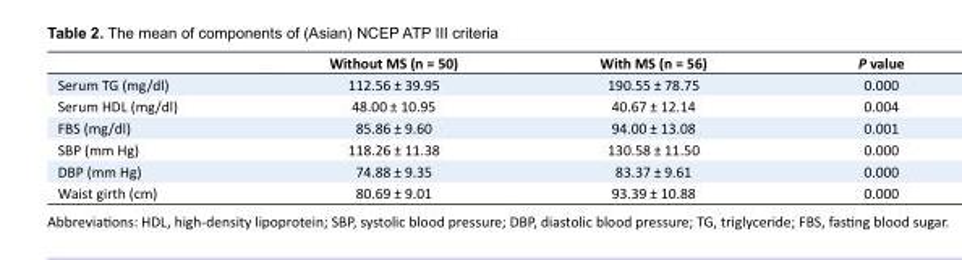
<table><thead><tr><td></td><td>Without MS (n = 50)</td><td>With MS (n = 56)</td><td>P value</td></tr></thead><tbody><tr><td>Serum TG (mg/dl)</td><td>112.56 ± 39.95</td><td>190.55 ± 78.75</td><td>0.000</td></tr><tr><td>Serum HDL (mg/dl)</td><td>48.00 ± 10.95</td><td>40.67 ± 12.14</td><td>0.004</td></tr><tr><td>FBS (mg/dl)</td><td>85.86 ± 9.60</td><td>94.00 ± 13.08</td><td>0.001</td></tr><tr><td>SBP (mm Hg)</td><td>118.26 ± 11.38</td><td>130.58 ± 11.50</td><td>0.000</td></tr><tr><td>DBP (mm Hg)</td><td>74.88 ± 9.35</td><td>83.37 ± 9.61</td><td>0.000</td></tr><tr><td>Waist girth (cm)</td><td>80.69 ± 9.01</td><td>93.39 ± 10.88</td><td>0.000</td></tr></tbody></table>